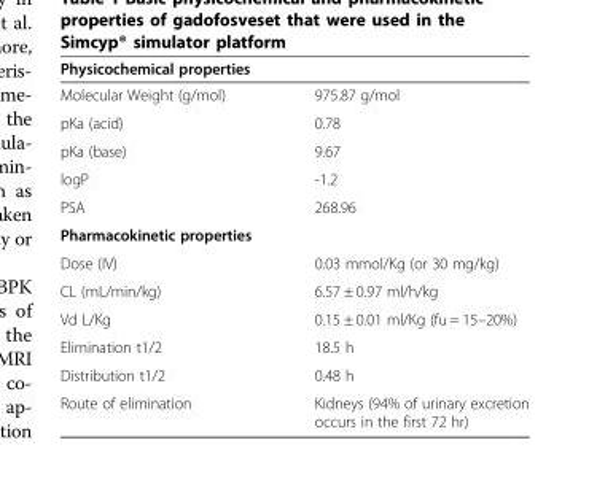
<table><thead><tr><td colspan="2">Physicochemical properties</td></tr><tr><td>Molecular Weight (g/mol)</td><td>975.87 g/mol</td></tr></thead><tbody><tr><td>pKa (acid)</td><td>0.78</td></tr><tr><td>pKa (base)</td><td>9.67</td></tr><tr><td>logP</td><td>-1.2</td></tr><tr><td>PSA</td><td>268.96</td></tr><tr><td colspan="2">Pharmacokinetic properties</td></tr><tr><td>Dose (IV)</td><td>0.03 mmol/Kg (or 30 mg/kg)</td></tr><tr><td>CL (mL/min/kg)</td><td>6.57 ± 0.97 ml/h/kg</td></tr><tr><td>Vd L/Kg</td><td>0.15 ± 0.01 ml/Kg (fu = 15–20%)</td></tr><tr><td>Elimination t1/2</td><td>18.5 h</td></tr><tr><td>Distribution t1/2</td><td>0.48 h</td></tr><tr><td>Route of elimination</td><td>Kidneys (94% of urinary excretion occurs in the first 72 hr)</td></tr></tbody></table>